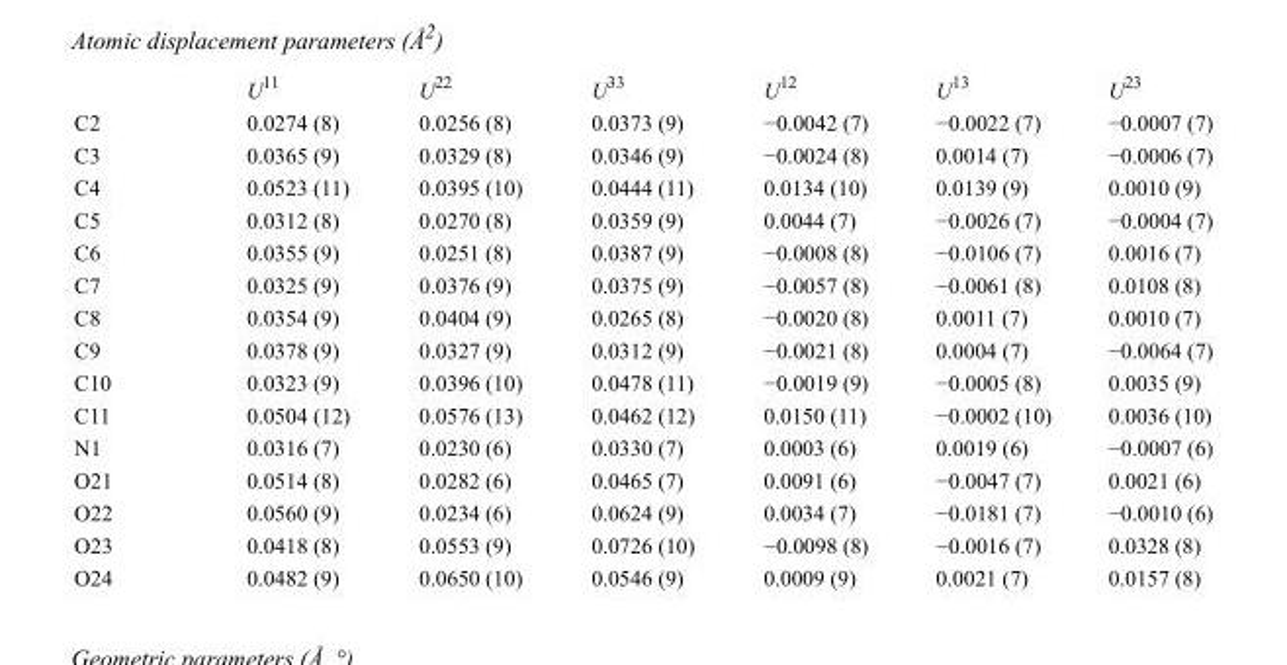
<table><thead><tr><td></td><td>U<sup>11</sup></td><td>U<sup>22</sup></td><td>U<sup>33</sup></td><td>U<sup>12</sup></td><td>U<sup>13</sup></td><td>U<sup>23</sup></td></tr></thead><tbody><tr><td>C2</td><td>0.0274 (8)</td><td>0.0256 (8)</td><td>0.0373 (9)</td><td>−0.0042 (7)</td><td>−0.0022 (7)</td><td>−0.0007 (7)</td></tr><tr><td>C3</td><td>0.0365 (9)</td><td>0.0329 (8)</td><td>0.0346 (9)</td><td>−0.0024 (8)</td><td>0.0014 (7)</td><td>−0.0006 (7)</td></tr><tr><td>C4</td><td>0.0523 (11)</td><td>0.0395 (10)</td><td>0.0444 (11)</td><td>0.0134 (10)</td><td>0.0139 (9)</td><td>0.0010 (9)</td></tr><tr><td>C5</td><td>0.0312 (8)</td><td>0.0270 (8)</td><td>0.0359 (9)</td><td>0.0044 (7)</td><td>−0.0026 (7)</td><td>−0.0004 (7)</td></tr><tr><td>C6</td><td>0.0355 (9)</td><td>0.0251 (8)</td><td>0.0387 (9)</td><td>−0.0008 (8)</td><td>−0.0106 (7)</td><td>0.0016 (7)</td></tr><tr><td>C7</td><td>0.0325 (9)</td><td>0.0376 (9)</td><td>0.0375 (9)</td><td>−0.0057 (8)</td><td>−0.0061 (8)</td><td>0.0108 (8)</td></tr><tr><td>C8</td><td>0.0354 (9)</td><td>0.0404 (9)</td><td>0.0265 (8)</td><td>−0.0020 (8)</td><td>0.0011 (7)</td><td>0.0010 (7)</td></tr><tr><td>C9</td><td>0.0378 (9)</td><td>0.0327 (9)</td><td>0.0312 (9)</td><td>−0.0021 (8)</td><td>0.0004 (7)</td><td>−0.0064 (7)</td></tr><tr><td>C10</td><td>0.0323 (9)</td><td>0.0396 (10)</td><td>0.0478 (11)</td><td>−0.0019 (9)</td><td>−0.0005 (8)</td><td>0.0035 (9)</td></tr><tr><td>C11</td><td>0.0504 (12)</td><td>0.0576 (13)</td><td>0.0462 (12)</td><td>0.0150 (11)</td><td>−0.0002 (10)</td><td>0.0036 (10)</td></tr><tr><td>N1</td><td>0.0316 (7)</td><td>0.0230 (6)</td><td>0.0330 (7)</td><td>0.0003 (6)</td><td>0.0019 (6)</td><td>−0.0007 (6)</td></tr><tr><td>O21</td><td>0.0514 (8)</td><td>0.0282 (6)</td><td>0.0465 (7)</td><td>0.0091 (6)</td><td>−0.0047 (7)</td><td>0.0021 (6)</td></tr><tr><td>O22</td><td>0.0560 (9)</td><td>0.0234 (6)</td><td>0.0624 (9)</td><td>0.0034 (7)</td><td>−0.0181 (7)</td><td>−0.0010 (6)</td></tr><tr><td>O23</td><td>0.0418 (8)</td><td>0.0553 (9)</td><td>0.0726 (10)</td><td>−0.0098 (8)</td><td>−0.0016 (7)</td><td>0.0328 (8)</td></tr><tr><td>O24</td><td>0.0482 (9)</td><td>0.0650 (10)</td><td>0.0546 (9)</td><td>0.0009 (9)</td><td>0.0021 (7)</td><td>0.0157 (8)</td></tr></tbody></table>